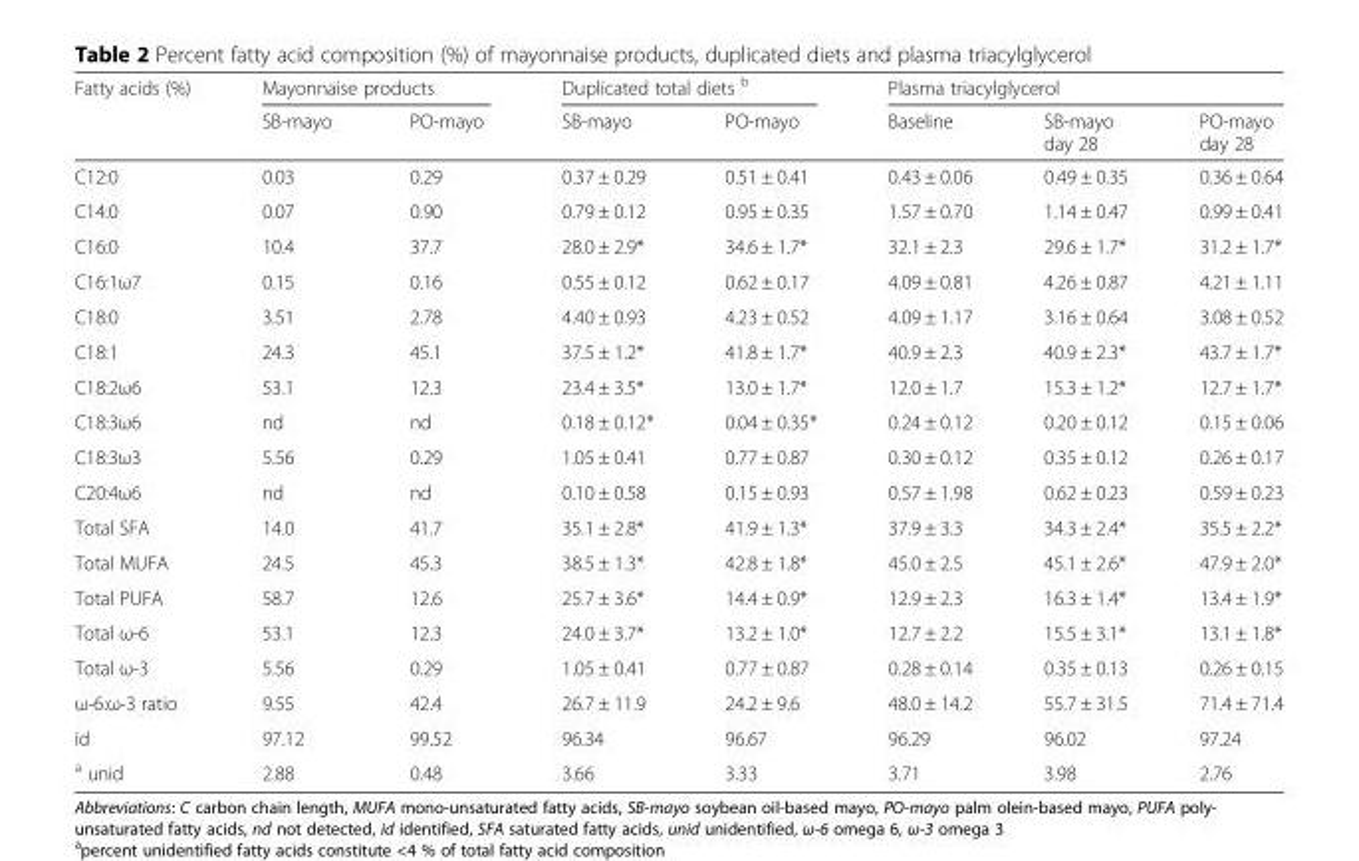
<table><thead><tr><td rowspan="2">Fatty acids (%)</td><td colspan="2">Mayonnaise products</td><td colspan="2">Duplicated total diets <sup>b</sup></td><td colspan="3">Plasma triacylglycerol</td></tr><tr><td>SB-mayo</td><td>PO-mayo</td><td>SB-mayo</td><td>PO-mayo</td><td>Baseline</td><td>SB-mayo day 28</td><td>PO-mayo day 28</td></tr></thead><tbody><tr><td>C12:0</td><td>0.03</td><td>0.29</td><td>0.37 ± 0.29</td><td>0.51 ± 0.41</td><td>0.43 ± 0.06</td><td>0.49 ± 0.35</td><td>0.36 ± 0.64</td></tr><tr><td>C14:0</td><td>0.07</td><td>0.90</td><td>0.79 ± 0.12</td><td>0.95 ± 0.35</td><td>1.57 ± 0.70</td><td>1.14 ± 0.47</td><td>0.99 ± 0.41</td></tr><tr><td>C16:0</td><td>10.4</td><td>37.7</td><td>28.0 ± 2.9*</td><td>34.6 ± 1.7*</td><td>32.1 ± 2.3</td><td>29.6 ± 1.7*</td><td>31.2 ± 1.7*</td></tr><tr><td>C16:1ω7</td><td>0.15</td><td>0.16</td><td>0.55 ± 0.12</td><td>0.62 ± 0.17</td><td>4.09 ± 0.81</td><td>4.26 ± 0.87</td><td>4.21 ± 1.11</td></tr><tr><td>C18:0</td><td>3.51</td><td>2.78</td><td>4.40 ± 0.93</td><td>4.23 ± 0.52</td><td>4.09 ± 1.17</td><td>3.16 ± 0.64</td><td>3.08 ± 0.52</td></tr><tr><td>C18:1</td><td>24.3</td><td>45.1</td><td>37.5 ± 1.2*</td><td>41.8 ± 1.7*</td><td>40.9 ± 2.3</td><td>40.9 ± 2.3*</td><td>43.7 ± 1.7*</td></tr><tr><td>C18:2ω6</td><td>53.1</td><td>12.3</td><td>23.4 ± 3.5*</td><td>13.0 ± 1.7*</td><td>12.0 ± 1.7</td><td>15.3 ± 1.2*</td><td>12.7 ± 1.7*</td></tr><tr><td>C18:3ω6</td><td>nd</td><td>nd</td><td>0.18 ± 0.12*</td><td>0.04 ± 0.35*</td><td>0.24 ± 0.12</td><td>0.20 ± 0.12</td><td>0.15 ± 0.06</td></tr><tr><td>C18:3ω3</td><td>5.56</td><td>0.29</td><td>1.05 ± 0.41</td><td>0.77 ± 0.87</td><td>0.30 ± 0.12</td><td>0.35 ± 0.12</td><td>0.26 ± 0.17</td></tr><tr><td>C20:4ω6</td><td>nd</td><td>nd</td><td>0.10 ± 0.58</td><td>0.15 ± 0.93</td><td>0.57 ± 1.98</td><td>0.62 ± 0.23</td><td>0.59 ± 0.23</td></tr><tr><td>Total SFA</td><td>14.0</td><td>41.7</td><td>35.1 ± 2.8*</td><td>41.9 ± 1.3*</td><td>37.9 ± 3.3</td><td>34.3 ± 2.4*</td><td>35.5 ± 2.2*</td></tr><tr><td>Total MUFA</td><td>24.5</td><td>45.3</td><td>38.5 ± 1.3*</td><td>42.8 ± 1.8*</td><td>45.0 ± 2.5</td><td>45.1 ± 2.6*</td><td>47.9 ± 2.0*</td></tr><tr><td>Total PUFA</td><td>58.7</td><td>12.6</td><td>25.7 ± 3.6*</td><td>14.4 ± 0.9*</td><td>12.9 ± 2.3</td><td>16.3 ± 1.4*</td><td>13.4 ± 1.9*</td></tr><tr><td>Total ω-6</td><td>53.1</td><td>12.3</td><td>24.0 ± 3.7*</td><td>13.2 ± 1.0*</td><td>12.7 ± 2.2</td><td>15.5 ± 3.1*</td><td>13.1 ± 1.8*</td></tr><tr><td>Total ω-3</td><td>5.56</td><td>0.29</td><td>1.05 ± 0.41</td><td>0.77 ± 0.87</td><td>0.28 ± 0.14</td><td>0.35 ± 0.13</td><td>0.26 ± 0.15</td></tr><tr><td>ω-6:ω-3 ratio</td><td>9.55</td><td>42.4</td><td>26.7 ± 11.9</td><td>24.2 ± 9.6</td><td>48.0 ± 14.2</td><td>55.7 ± 31.5</td><td>71.4 ± 71.4</td></tr><tr><td>id</td><td>97.12</td><td>99.52</td><td>96.34</td><td>96.67</td><td>96.29</td><td>96.02</td><td>97.24</td></tr><tr><td><sup>a</sup> unid</td><td>2.88</td><td>0.48</td><td>3.66</td><td>3.33</td><td>3.71</td><td>3.98</td><td>2.76</td></tr></tbody></table>